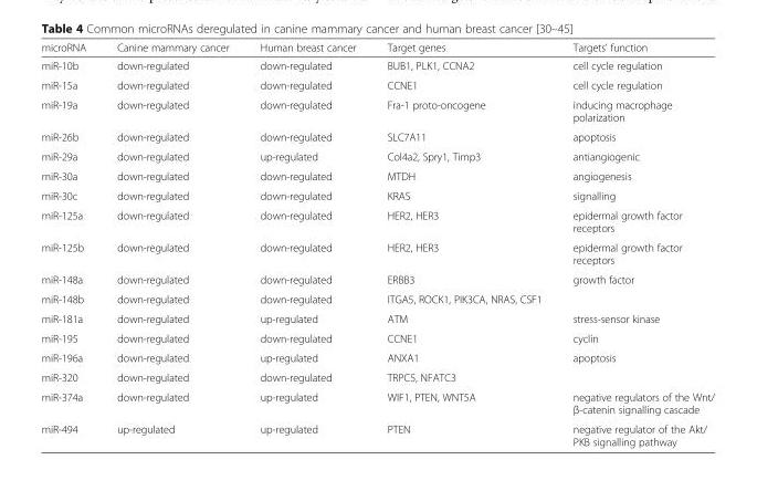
<table><thead><tr><td>microRNA</td><td>Canine mammary cancer</td><td>Human breast cancer</td><td>Target genes</td><td>Targets’ function</td></tr></thead><tbody><tr><td>miR-10b</td><td>down-regulated</td><td>down-regulated</td><td>BUB1, PLK1, CCNA2</td><td>cell cycle regulation</td></tr><tr><td>miR-15a</td><td>down-regulated</td><td>down-regulated</td><td>CCNE1</td><td>cell cycle regulation</td></tr><tr><td>miR-19a</td><td>down-regulated</td><td>down-regulated</td><td>Fra-1 proto-oncogene</td><td>inducing macrophage polarization</td></tr><tr><td>miR-26b</td><td>down-regulated</td><td>down-regulated</td><td>SLC7A11</td><td>apoptosis</td></tr><tr><td>miR-29a</td><td>down-regulated</td><td>up-regulated</td><td>Col4a2, Spry1, Timp3</td><td>antiangiogenic</td></tr><tr><td>miR-30a</td><td>down-regulated</td><td>down-regulated</td><td>MTDH</td><td>angiogenesis</td></tr><tr><td>miR-30c</td><td>down-regulated</td><td>down-regulated</td><td>KRAS</td><td>signalling</td></tr><tr><td>miR-125a</td><td>down-regulated</td><td>down-regulated</td><td>HER2, HER3</td><td>epidermal growth factor receptors</td></tr><tr><td>miR-125b</td><td>down-regulated</td><td>down-regulated</td><td>HER2, HER3</td><td>epidermal growth factor receptors</td></tr><tr><td>miR-148a</td><td>down-regulated</td><td>down-regulated</td><td>ERBB3</td><td>growth factor</td></tr><tr><td>miR-148b</td><td>down-regulated</td><td>down-regulated</td><td>ITGA5, ROCK1, PIK3CA, NRAS, CSF1</td><td></td></tr><tr><td>miR-181a</td><td>down-regulated</td><td>up-regulated</td><td>ATM</td><td>stress-sensor kinase</td></tr><tr><td>miR-195</td><td>down-regulated</td><td>down-regulated</td><td>CCNE1</td><td>cyclin</td></tr><tr><td>miR-196a</td><td>down-regulated</td><td>up-regulated</td><td>ANXA1</td><td>apoptosis</td></tr><tr><td>miR-320</td><td>down-regulated</td><td>down-regulated</td><td>TRPC5, NFATC3</td><td></td></tr><tr><td>miR-374a</td><td>down-regulated</td><td>up-regulated</td><td>WIF1, PTEN, WNT5A</td><td>negative regulators of the Wnt/ β-catenin signalling cascade</td></tr><tr><td>miR-494</td><td>up-regulated</td><td>up-regulated</td><td>PTEN</td><td>negative regulator of the Akt/ PKB signalling pathway</td></tr></tbody></table>